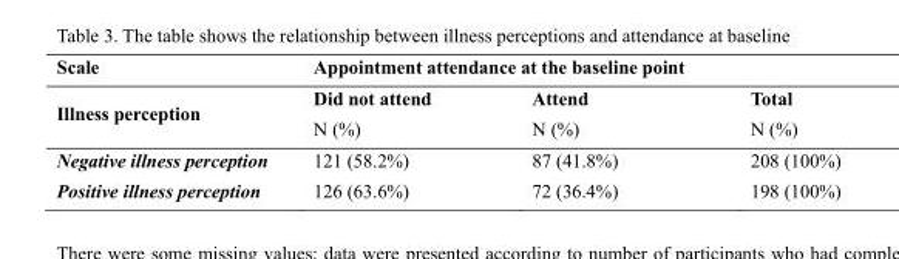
<table><thead><tr><td rowspan="2">Scale Illness perception</td><td colspan="3">Appointment attendance at the baseline point</td></tr><tr><td>Did not attend N (%)</td><td>Attend N (%)</td><td>Total N (%)</td></tr></thead><tbody><tr><td>Negative illness perception</td><td>121 (58.2%)</td><td>87 (41.8%)</td><td>208 (100%)</td></tr><tr><td>Positive illness perception</td><td>126 (63.6%)</td><td>72 (36.4%)</td><td>198 (100%)</td></tr></tbody></table>